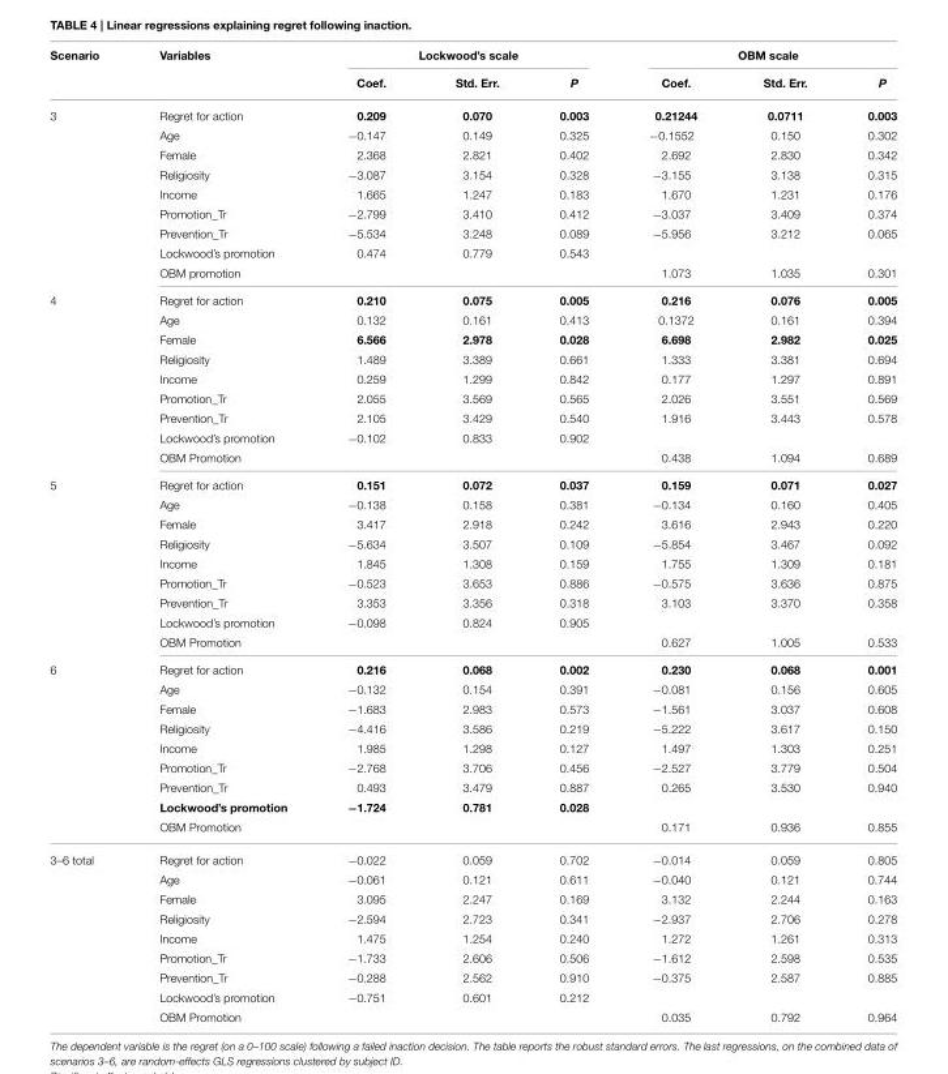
<table><thead><tr><td rowspan="2">Scenario</td><td rowspan="2">Variables</td><td colspan="3">Lockwood’s scale</td><td colspan="3">OBM scale</td></tr><tr><td>Coef.</td><td>Std. Err.</td><td>P</td><td>Coef.</td><td>Std. Err.</td><td>P</td></tr></thead><tbody><tr><td rowspan="9">3</td><td>Regret for action</td><td>0.209</td><td>0.070</td><td>0.003</td><td>0.21244</td><td>0.0711</td><td>0.003</td></tr><tr><td>Age</td><td>−0.147</td><td>0.149</td><td>0.325</td><td>−0.1552</td><td>0.150</td><td>0.302</td></tr><tr><td>Female</td><td>2.368</td><td>2.821</td><td>0.402</td><td>2.692</td><td>2.830</td><td>0.342</td></tr><tr><td>Religiosity</td><td>−3.087</td><td>3.154</td><td>0.328</td><td>−3.155</td><td>3.138</td><td>0.315</td></tr><tr><td>Income</td><td>1.665</td><td>1.247</td><td>0.183</td><td>1.670</td><td>1.231</td><td>0.176</td></tr><tr><td>Promotion_Tr</td><td>−2.799</td><td>3.410</td><td>0.412</td><td>−3.037</td><td>3.409</td><td>0.374</td></tr><tr><td>Prevention_Tr</td><td>−5.534</td><td>3.248</td><td>0.089</td><td>−5.956</td><td>3.212</td><td>0.065</td></tr><tr><td>Lockwood’s promotion</td><td>0.474</td><td>0.779</td><td>0.543</td><td></td><td></td><td></td></tr><tr><td>OBM promotion</td><td></td><td></td><td></td><td>1.073</td><td>1.035</td><td>0.301</td></tr><tr><td rowspan="9">4</td><td>Regret for action</td><td>0.210</td><td>0.075</td><td>0.005</td><td>0.216</td><td>0.076</td><td>0.005</td></tr><tr><td>Age</td><td>0.132</td><td>0.161</td><td>0.413</td><td>0.1372</td><td>0.161</td><td>0.394</td></tr><tr><td>Female</td><td>6.566</td><td>2.978</td><td>0.028</td><td>6.698</td><td>2.982</td><td>0.025</td></tr><tr><td>Religiosity</td><td>1.489</td><td>3.389</td><td>0.661</td><td>1.333</td><td>3.381</td><td>0.694</td></tr><tr><td>Income</td><td>0.259</td><td>1.299</td><td>0.842</td><td>0.177</td><td>1.297</td><td>0.891</td></tr><tr><td>Promotion_Tr</td><td>2.055</td><td>3.569</td><td>0.565</td><td>2.026</td><td>3.551</td><td>0.569</td></tr><tr><td>Prevention_Tr</td><td>2.105</td><td>3.429</td><td>0.540</td><td>1.916</td><td>3.443</td><td>0.578</td></tr><tr><td>Lockwood’s promotion</td><td>−0.102</td><td>0.833</td><td>0.902</td><td></td><td></td><td></td></tr><tr><td>OBM Promotion</td><td></td><td></td><td></td><td>0.438</td><td>1.094</td><td>0.689</td></tr><tr><td rowspan="9">5</td><td>Regret for action</td><td>0.151</td><td>0.072</td><td>0.037</td><td>0.159</td><td>0.071</td><td>0.027</td></tr><tr><td>Age</td><td>−0.138</td><td>0.158</td><td>0.381</td><td>−0.134</td><td>0.160</td><td>0.405</td></tr><tr><td>Female</td><td>3.417</td><td>2.918</td><td>0.242</td><td>3.616</td><td>2.943</td><td>0.220</td></tr><tr><td>Religiosity</td><td>−5.634</td><td>3.507</td><td>0.109</td><td>−5.854</td><td>3.467</td><td>0.092</td></tr><tr><td>Income</td><td>1.845</td><td>1.308</td><td>0.159</td><td>1.755</td><td>1.309</td><td>0.181</td></tr><tr><td>Promotion_Tr</td><td>−0.523</td><td>3.653</td><td>0.886</td><td>−0.575</td><td>3.636</td><td>0.875</td></tr><tr><td>Prevention_Tr</td><td>3.353</td><td>3.356</td><td>0.318</td><td>3.103</td><td>3.370</td><td>0.358</td></tr><tr><td>Lockwood’s promotion</td><td>−0.098</td><td>0.824</td><td>0.905</td><td></td><td></td><td></td></tr><tr><td>OBM Promotion</td><td></td><td></td><td></td><td>0.627</td><td>1.005</td><td>0.533</td></tr><tr><td rowspan="9">6</td><td>Regret for action</td><td>0.216</td><td>0.068</td><td>0.002</td><td>0.230</td><td>0.068</td><td>0.001</td></tr><tr><td>Age</td><td>−0.132</td><td>0.154</td><td>0.391</td><td>−0.081</td><td>0.156</td><td>0.605</td></tr><tr><td>Female</td><td>−1.683</td><td>2.983</td><td>0.573</td><td>−1.561</td><td>3.037</td><td>0.608</td></tr><tr><td>Religiosity</td><td>−4.416</td><td>3.586</td><td>0.219</td><td>−5.222</td><td>3.617</td><td>0.150</td></tr><tr><td>Income</td><td>1.985</td><td>1.298</td><td>0.127</td><td>1.497</td><td>1.303</td><td>0.251</td></tr><tr><td>Promotion_Tr</td><td>−2.768</td><td>3.706</td><td>0.456</td><td>−2.527</td><td>3.779</td><td>0.504</td></tr><tr><td>Prevention_Tr</td><td>0.493</td><td>3.479</td><td>0.887</td><td>0.265</td><td>3.530</td><td>0.940</td></tr><tr><td>Lockwood’s promotion</td><td>−1.724</td><td>0.781</td><td>0.028</td><td></td><td></td><td></td></tr><tr><td>OBM Promotion</td><td></td><td></td><td></td><td>0.171</td><td>0.936</td><td>0.855</td></tr><tr><td rowspan="9">3–6 total</td><td>Regret for action</td><td>−0.022</td><td>0.059</td><td>0.702</td><td>−0.014</td><td>0.059</td><td>0.805</td></tr><tr><td>Age</td><td>−0.061</td><td>0.121</td><td>0.611</td><td>−0.040</td><td>0.121</td><td>0.744</td></tr><tr><td>Female</td><td>3.095</td><td>2.247</td><td>0.169</td><td>3.132</td><td>2.244</td><td>0.163</td></tr><tr><td>Religiosity</td><td>−2.594</td><td>2.723</td><td>0.341</td><td>−2.937</td><td>2.706</td><td>0.278</td></tr><tr><td>Income</td><td>1.475</td><td>1.254</td><td>0.240</td><td>1.272</td><td>1.261</td><td>0.313</td></tr><tr><td>Promotion_Tr</td><td>−1.733</td><td>2.606</td><td>0.506</td><td>−1.612</td><td>2.598</td><td>0.535</td></tr><tr><td>Prevention_Tr</td><td>−0.288</td><td>2.562</td><td>0.910</td><td>−0.375</td><td>2.587</td><td>0.885</td></tr><tr><td>Lockwood’s promotion</td><td>−0.751</td><td>0.601</td><td>0.212</td><td></td><td></td><td></td></tr><tr><td>OBM Promotion</td><td></td><td></td><td></td><td>0.035</td><td>0.792</td><td>0.964</td></tr></tbody></table>